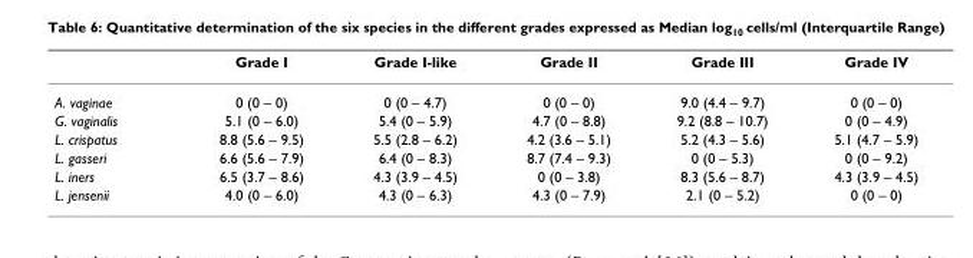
<table><thead><tr><td></td><td>Grade I</td><td>Grade I-like</td><td>Grade II</td><td>Grade III</td><td>Grade IV</td></tr></thead><tbody><tr><td>A. vaginae</td><td>0 (0 – 0)</td><td>0 (0 – 4.7)</td><td>0 (0 – 0)</td><td>9.0 (4.4 – 9.7)</td><td>0 (0 – 0)</td></tr><tr><td>G. vaginalis</td><td>5.1 (0 – 6.0)</td><td>5.4 (0 – 5.9)</td><td>4.7 (0 – 8.8)</td><td>9.2 (8.8 – 10.7)</td><td>0 (0 – 4.9)</td></tr><tr><td>L. crispatus</td><td>8.8 (5.6 – 9.5)</td><td>5.5 (2.8 – 6.2)</td><td>4.2 (3.6 – 5.1)</td><td>5.2 (4.3 – 5.6)</td><td>5.1 (4.7 – 5.9)</td></tr><tr><td>L. gasseri</td><td>6.6 (5.6 – 7.9)</td><td>6.4 (0 – 8.3)</td><td>8.7 (7.4 – 9.3)</td><td>0 (0 – 5.3)</td><td>0 (0 – 9.2)</td></tr><tr><td>L. iners</td><td>6.5 (3.7 – 8.6)</td><td>4.3 (3.9 – 4.5)</td><td>0 (0 – 3.8)</td><td>8.3 (5.6 – 8.7)</td><td>4.3 (3.9 – 4.5)</td></tr><tr><td>L. jensenii</td><td>4.0 (0 – 6.0)</td><td>4.3 (0 – 6.3)</td><td>4.3 (0 – 7.9)</td><td>2.1 (0 – 5.2)</td><td>0 (0 – 0)</td></tr></tbody></table>